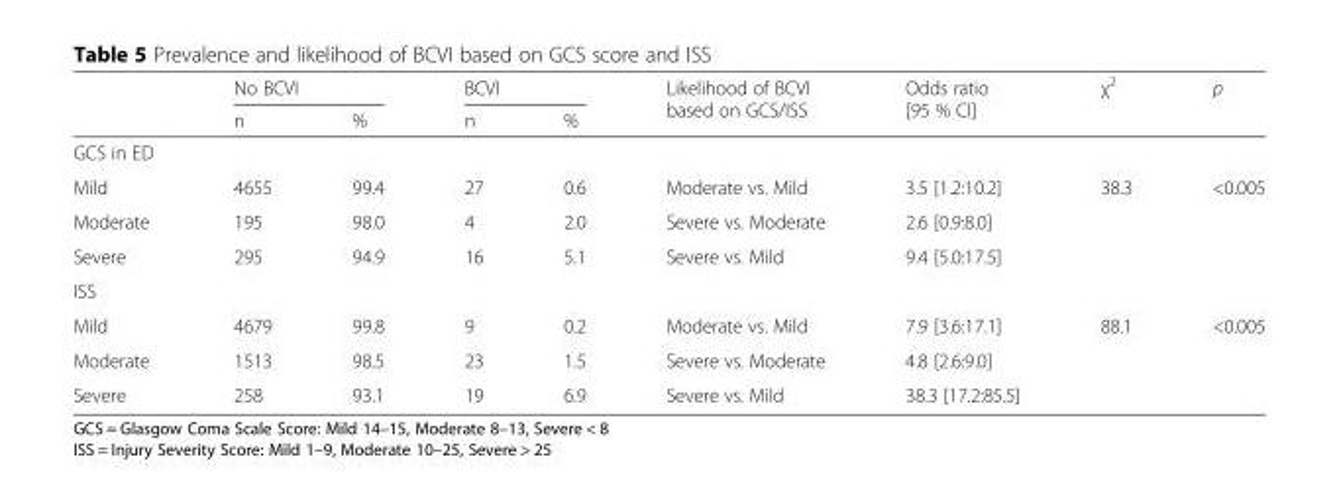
<table><thead><tr><td rowspan="2"></td><td colspan="2">No BCVI</td><td colspan="2">BCVI</td><td rowspan="2">Likelihood of BCVI based on GCS/ISS</td><td rowspan="2">Odds ratio [95 % CI]</td><td rowspan="2">χ<sup>2</sup></td><td rowspan="2">p</td></tr><tr><td>n</td><td>%</td><td>n</td><td>%</td></tr></thead><tbody><tr><td colspan="9">GCS in ED</td></tr><tr><td>Mild</td><td>4655</td><td>99.4</td><td>27</td><td>0.6</td><td>Moderate vs. Mild</td><td>3.5 [1.2:10.2]</td><td rowspan="3">38.3</td><td rowspan="3">&lt;0.005</td></tr><tr><td>Moderate</td><td>195</td><td>98.0</td><td>4</td><td>2.0</td><td>Severe vs. Moderate</td><td>2.6 [0.9:8.0]</td></tr><tr><td>Severe</td><td>295</td><td>94.9</td><td>16</td><td>5.1</td><td>Severe vs. Mild</td><td>9.4 [5.0:17.5]</td></tr><tr><td colspan="9">ISS</td></tr><tr><td>Mild</td><td>4679</td><td>99.8</td><td>9</td><td>0.2</td><td>Moderate vs. Mild</td><td>7.9 [3.6:17.1]</td><td rowspan="3">88.1</td><td rowspan="3">&lt;0.005</td></tr><tr><td>Moderate</td><td>1513</td><td>98.5</td><td>23</td><td>1.5</td><td>Severe vs. Moderate</td><td>4.8 [2.6:9.0]</td></tr><tr><td>Severe</td><td>258</td><td>93.1</td><td>19</td><td>6.9</td><td>Severe vs. Mild</td><td>38.3 [17.2:85.5]</td></tr></tbody></table>